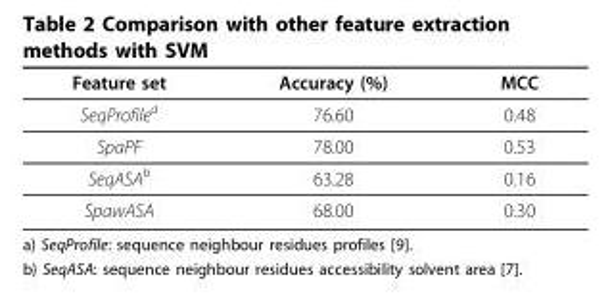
<table><thead><tr><td>Feature set</td><td>Accuracy (%)</td><td>MCC</td></tr></thead><tbody><tr><td>SeqProfilea</td><td>76.60</td><td>0.48</td></tr><tr><td>SpaPF</td><td>78.00</td><td>0.53</td></tr><tr><td>SeqASAb</td><td>63.28</td><td>0.16</td></tr><tr><td>SpawASA</td><td>68.00</td><td>0.30</td></tr></tbody></table>